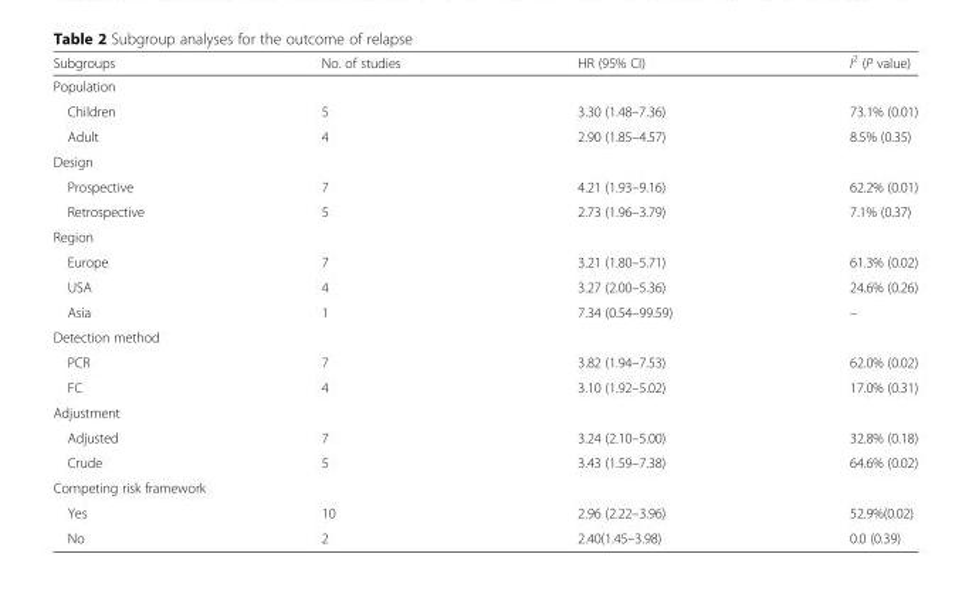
<table><thead><tr><td>Subgroups</td><td>No. of studies</td><td>HR (95% CI)</td><td>I<sup>2</sup> (P value)</td></tr></thead><tbody><tr><td colspan="4">Population</td></tr><tr><td>Children</td><td>5</td><td>3.30 (1.48–7.36)</td><td>73.1% (0.01)</td></tr><tr><td>Adult</td><td>4</td><td>2.90 (1.85–4.57)</td><td>8.5% (0.35)</td></tr><tr><td colspan="4">Design</td></tr><tr><td>Prospective</td><td>7</td><td>4.21 (1.93–9.16)</td><td>62.2% (0.01)</td></tr><tr><td>Retrospective</td><td>5</td><td>2.73 (1.96–3.79)</td><td>7.1% (0.37)</td></tr><tr><td colspan="4">Region</td></tr><tr><td>Europe</td><td>7</td><td>3.21 (1.80–5.71)</td><td>61.3% (0.02)</td></tr><tr><td>USA</td><td>4</td><td>3.27 (2.00–5.36)</td><td>24.6% (0.26)</td></tr><tr><td>Asia</td><td>1</td><td>7.34 (0.54–99.59)</td><td>–</td></tr><tr><td colspan="4">Detection method</td></tr><tr><td>PCR</td><td>7</td><td>3.82 (1.94–7.53)</td><td>62.0% (0.02)</td></tr><tr><td>FC</td><td>4</td><td>3.10 (1.92–5.02)</td><td>17.0% (0.31)</td></tr><tr><td colspan="4">Adjustment</td></tr><tr><td>Adjusted</td><td>7</td><td>3.24 (2.10–5.00)</td><td>32.8% (0.18)</td></tr><tr><td>Crude</td><td>5</td><td>3.43 (1.59–7.38)</td><td>64.6% (0.02)</td></tr><tr><td colspan="4">Competing risk framework</td></tr><tr><td>Yes</td><td>10</td><td>2.96 (2.22–3.96)</td><td>52.9%(0.02)</td></tr><tr><td>No</td><td>2</td><td>2.40(1.45–3.98)</td><td>0.0 (0.39)</td></tr></tbody></table>